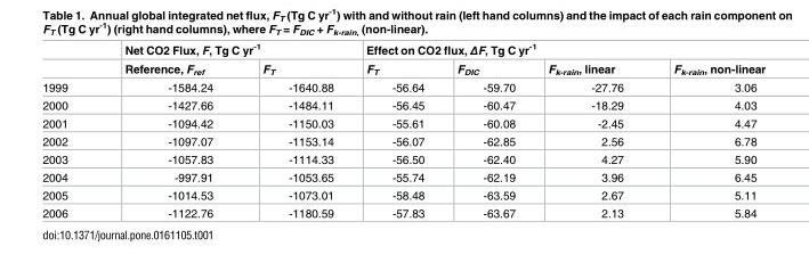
<table><thead><tr><td rowspan="2"></td><td colspan="2">Net CO2 Flux, F, Tg C yr<sup>-1</sup></td><td colspan="4">Effect on CO2 flux, ΔF, Tg C yr<sup>-1</sup></td></tr><tr><td>Reference, F<sub>ref</sub></td><td>F<sub>T</sub></td><td>F<sub>T</sub></td><td>F<sub>DIC</sub></td><td>F<sub>k-rain</sub>, linear</td><td>F<sub>k-rain</sub>, non-linear</td></tr></thead><tbody><tr><td>1999</td><td>-1584.24</td><td>-1640.88</td><td>-56.64</td><td>-59.70</td><td>-27.76</td><td>3.06</td></tr><tr><td>2000</td><td>-1427.66</td><td>-1484.11</td><td>-56.45</td><td>-60.47</td><td>-18.29</td><td>4.03</td></tr><tr><td>2001</td><td>-1094.42</td><td>-1150.03</td><td>-55.61</td><td>-60.08</td><td>-2.45</td><td>4.47</td></tr><tr><td>2002</td><td>-1097.07</td><td>-1153.14</td><td>-56.07</td><td>-62.85</td><td>2.56</td><td>6.78</td></tr><tr><td>2003</td><td>-1057.83</td><td>-1114.33</td><td>-56.50</td><td>-62.40</td><td>4.27</td><td>5.90</td></tr><tr><td>2004</td><td>-997.91</td><td>-1053.65</td><td>-55.74</td><td>-62.19</td><td>3.96</td><td>6.45</td></tr><tr><td>2005</td><td>-1014.53</td><td>-1073.01</td><td>-58.48</td><td>-63.59</td><td>2.67</td><td>5.11</td></tr><tr><td>2006</td><td>-1122.76</td><td>-1180.59</td><td>-57.83</td><td>-63.67</td><td>2.13</td><td>5.84</td></tr></tbody></table>